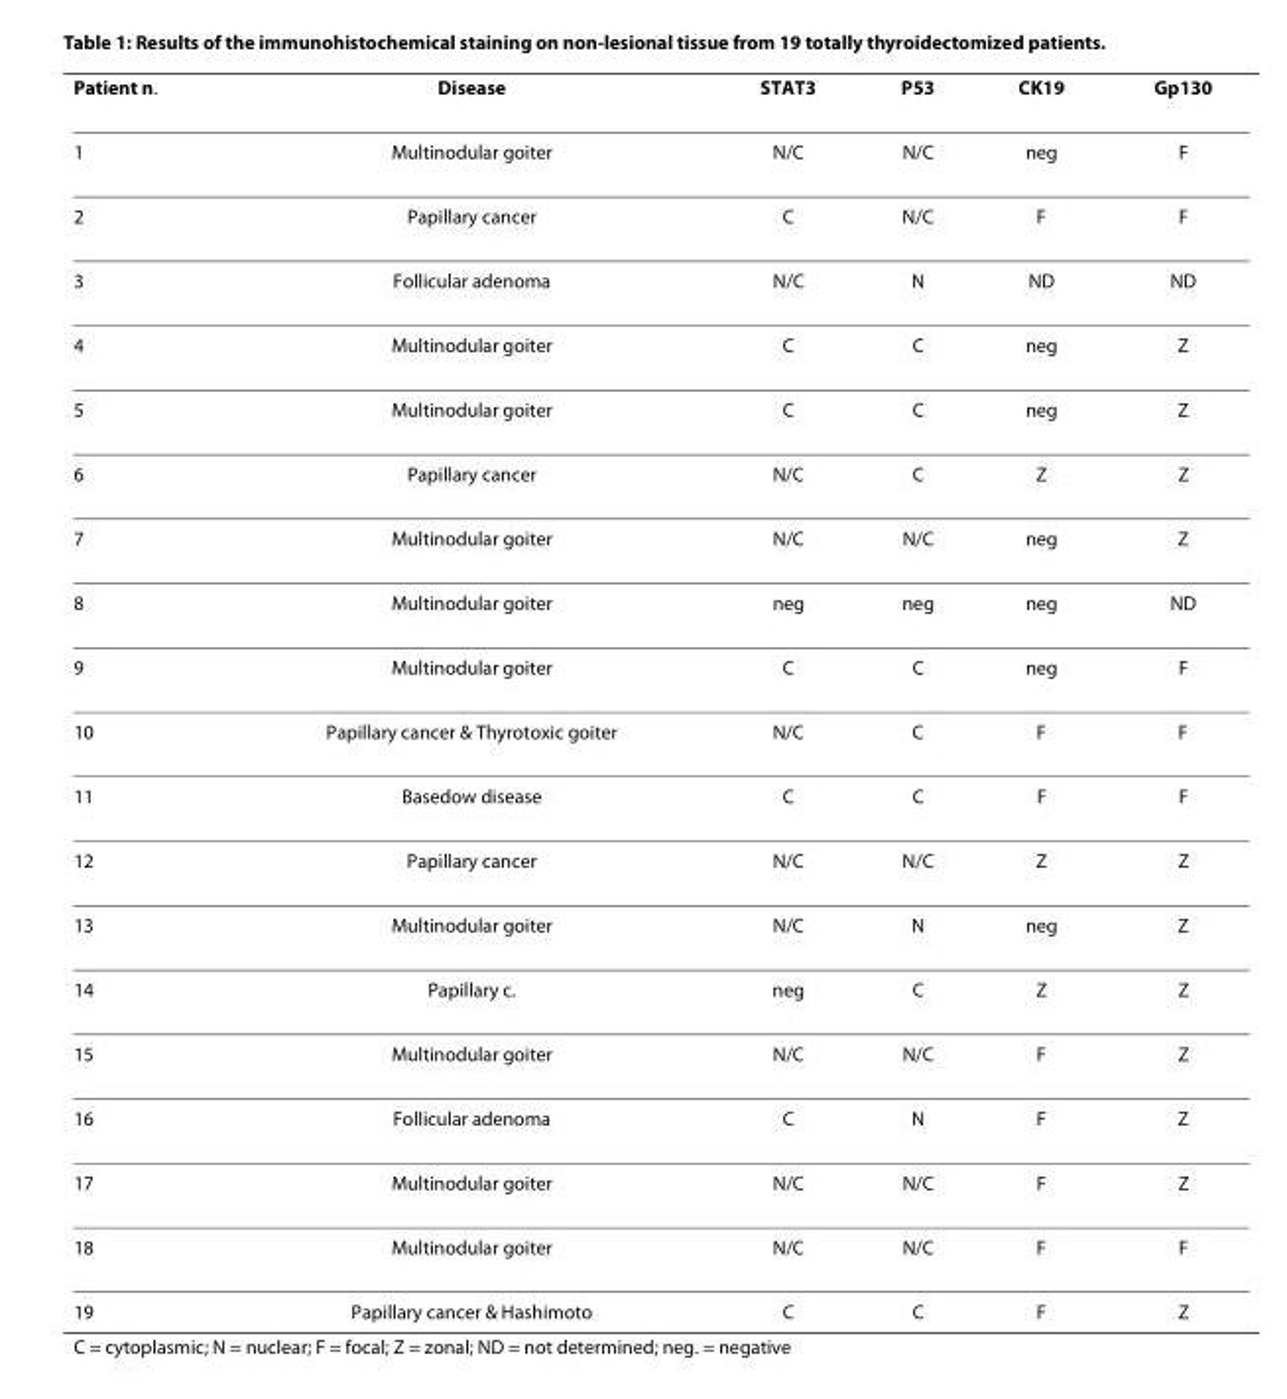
<table><thead><tr><td>Patient n.</td><td>Disease</td><td>STAT3</td><td>P53</td><td>CK19</td><td>Gp130</td></tr></thead><tbody><tr><td>1</td><td>Multinodular goiter</td><td>N/C</td><td>N/C</td><td>neg</td><td>F</td></tr><tr><td>2</td><td>Papillary cancer</td><td>C</td><td>N/C</td><td>F</td><td>F</td></tr><tr><td>3</td><td>Follicular adenoma</td><td>N/C</td><td>N</td><td>ND</td><td>ND</td></tr><tr><td>4</td><td>Multinodular goiter</td><td>C</td><td>C</td><td>neg</td><td>Z</td></tr><tr><td>5</td><td>Multinodular goiter</td><td>C</td><td>C</td><td>neg</td><td>Z</td></tr><tr><td>6</td><td>Papillary cancer</td><td>N/C</td><td>C</td><td>Z</td><td>Z</td></tr><tr><td>7</td><td>Multinodular goiter</td><td>N/C</td><td>N/C</td><td>neg</td><td>Z</td></tr><tr><td>8</td><td>Multinodular goiter</td><td>neg</td><td>neg</td><td>neg</td><td>ND</td></tr><tr><td>9</td><td>Multinodular goiter</td><td>C</td><td>C</td><td>neg</td><td>F</td></tr><tr><td>10</td><td>Papillary cancer &amp; Thyrotoxic goiter</td><td>N/C</td><td>C</td><td>F</td><td>F</td></tr><tr><td>11</td><td>Basedow disease</td><td>C</td><td>C</td><td>F</td><td>F</td></tr><tr><td>12</td><td>Papillary cancer</td><td>N/C</td><td>N/C</td><td>Z</td><td>Z</td></tr><tr><td>13</td><td>Multinodular goiter</td><td>N/C</td><td>N</td><td>neg</td><td>Z</td></tr><tr><td>14</td><td>Papillary c.</td><td>neg</td><td>C</td><td>Z</td><td>Z</td></tr><tr><td>15</td><td>Multinodular goiter</td><td>N/C</td><td>N/C</td><td>F</td><td>Z</td></tr><tr><td>16</td><td>Follicular adenoma</td><td>C</td><td>N</td><td>F</td><td>Z</td></tr><tr><td>17</td><td>Multinodular goiter</td><td>N/C</td><td>N/C</td><td>F</td><td>Z</td></tr><tr><td>18</td><td>Multinodular goiter</td><td>N/C</td><td>N/C</td><td>F</td><td>F</td></tr><tr><td>19</td><td>Papillary cancer &amp; Hashimoto</td><td>C</td><td>C</td><td>F</td><td>Z</td></tr></tbody></table>